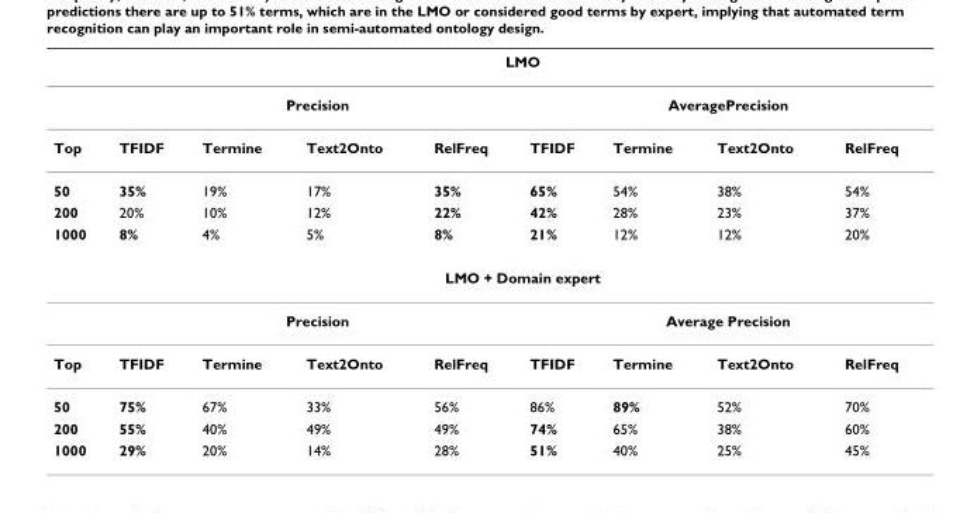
<table><thead><tr><td rowspan="3">Top</td><td colspan="8">LMO</td></tr><tr><td colspan="4">Precision</td><td colspan="4">AveragePrecision</td></tr><tr><td>TFIDF</td><td>Termine</td><td>Text2Onto</td><td>RelFreq</td><td>TFIDF</td><td>Termine</td><td>Text2Onto</td><td>RelFreq</td></tr></thead><tbody><tr><td>50</td><td>35%</td><td>19%</td><td>17%</td><td>35%</td><td>65%</td><td>54%</td><td>38%</td><td>54%</td></tr><tr><td>200</td><td>20%</td><td>10%</td><td>12%</td><td>22%</td><td>42%</td><td>28%</td><td>23%</td><td>37%</td></tr><tr><td rowspan="3">1000</td><td>8%</td><td>4%</td><td>5%</td><td>8%</td><td>21%</td><td>12%</td><td>12%</td><td>20%</td></tr><tr><td colspan="8">LMO + Domain expert</td></tr><tr><td colspan="4">Precision</td><td colspan="4">Average Precision</td></tr><tr><td>Top</td><td>TFIDF</td><td>Termine</td><td>Text2Onto</td><td>RelFreq</td><td>TFIDF</td><td>Termine</td><td>Text2Onto</td><td>RelFreq</td></tr><tr><td>50</td><td>75%</td><td>67%</td><td>33%</td><td>56%</td><td>86%</td><td>89%</td><td>52%</td><td>70%</td></tr><tr><td>200</td><td>55%</td><td>40%</td><td>49%</td><td>49%</td><td>74%</td><td>65%</td><td>38%</td><td>60%</td></tr><tr><td>1000</td><td>29%</td><td>20%</td><td>14%</td><td>28%</td><td>51%</td><td>40%</td><td>25%</td><td>45%</td></tr></tbody></table>